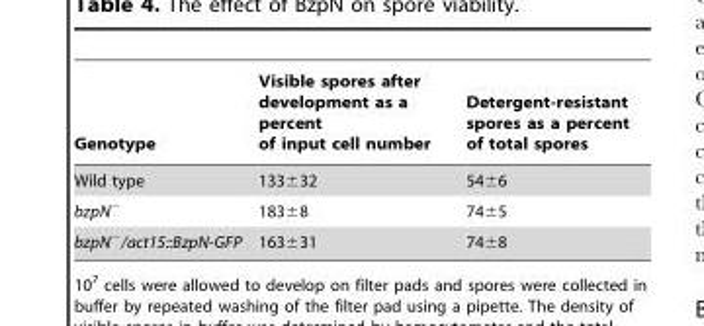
<table><thead><tr><td>Genotype</td><td>Visible spores after development as a percent of input cell number</td><td>Detergent-resistant spores as a percent of total spores</td></tr></thead><tbody><tr><td>Wild type</td><td>133±32</td><td>54±6</td></tr><tr><td>bzpN<sup>−</sup></td><td>183±8</td><td>74±5</td></tr><tr><td>bzpN<sup>−</sup>/act15::BzpN-GFP</td><td>163±31</td><td>74±8</td></tr></tbody></table>